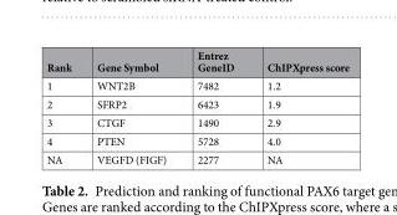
<table><thead><tr><td>Rank</td><td>Gene Symbol</td><td>Entrez GeneID</td><td>ChIPXpress score</td></tr></thead><tbody><tr><td>1</td><td>WNT2B</td><td>7482</td><td>1.2</td></tr><tr><td>2</td><td>SFRP2</td><td>6423</td><td>1.9</td></tr><tr><td>3</td><td>CTGF</td><td>1490</td><td>2.9</td></tr><tr><td>4</td><td>PTEN</td><td>5728</td><td>4.0</td></tr><tr><td>NA</td><td>VEGFD (FIGF)</td><td>2277</td><td>NA</td></tr></tbody></table>